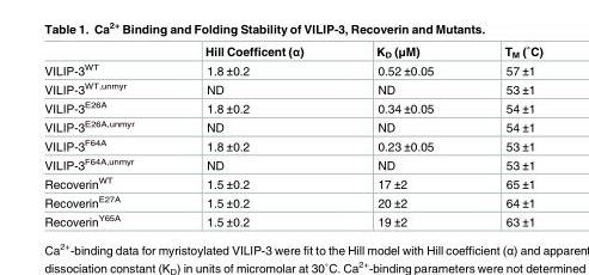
<table><thead><tr><td></td><td>Hill Coefficent (α)</td><td>K<sub>D</sub> (μM)</td><td>TM (˚C)</td></tr></thead><tbody><tr><td>VILIP-3<sup>WT</sup></td><td>1.8 ±0.2</td><td>0.52 ±0.05</td><td>57 ±1</td></tr><tr><td>VILIP-3<sup>WT,unmyr</sup></td><td>ND</td><td>ND</td><td>53 ±1</td></tr><tr><td>VILIP-3<sup>E26A</sup></td><td>1.8 ±0.2</td><td>0.34 ±0.05</td><td>54 ±1</td></tr><tr><td>VILIP-3<sup>E26A,unmyr</sup></td><td>ND</td><td>ND</td><td>54 ±1</td></tr><tr><td>VILIP-3<sup>F64A</sup></td><td>1.8 ±0.2</td><td>0.23 ±0.05</td><td>53 ±1</td></tr><tr><td>VILIP-3<sup>F64A,unmyr</sup></td><td>ND</td><td>ND</td><td>53 ±1</td></tr><tr><td>Recoverin<sup>WT</sup></td><td>1.5 ±0.2</td><td>17 ±2</td><td>65 ±1</td></tr><tr><td>Recoverin<sup>E27A</sup></td><td>1.5 ±0.2</td><td>20 ±2</td><td>64 ±1</td></tr><tr><td>Recoverin<sup>Y65A</sup></td><td>1.5 ±0.2</td><td>19 ±2</td><td>63 ±1</td></tr></tbody></table>